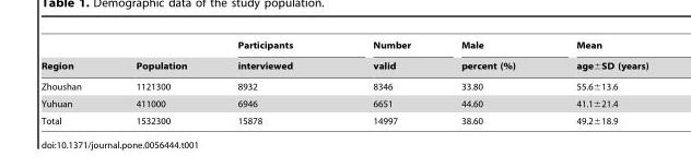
<table><thead><tr><td rowspan="2">Region</td><td rowspan="2">Population</td><td rowspan="2">Participants interviewed</td><td rowspan="2">Number valid</td><td rowspan="2">Male percent (%)</td><td rowspan="2">Mean age±SD (years)</td></tr><tr></tr></thead><tbody><tr><td>Zhoushan</td><td>1121300</td><td>8932</td><td>8346</td><td>33.80</td><td>55.6±13.6</td></tr><tr><td>Yuhuan</td><td>411000</td><td>6946</td><td>6651</td><td>44.60</td><td>41.1±21.4</td></tr><tr><td>Total</td><td>1532300</td><td>15878</td><td>14997</td><td>38.60</td><td>49.2±18.9</td></tr></tbody></table>